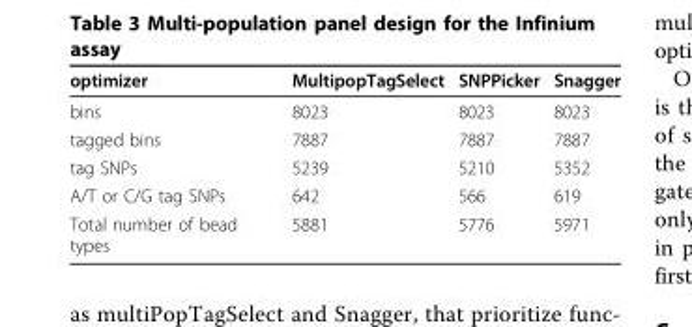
<table><thead><tr><td>optimizer</td><td>MultipopTagSelect</td><td>SNPPicker</td><td>Snagger</td></tr></thead><tbody><tr><td>bins</td><td>8023</td><td>8023</td><td>8023</td></tr><tr><td>tagged bins</td><td>7887</td><td>7887</td><td>7887</td></tr><tr><td>tag SNPs</td><td>5239</td><td>5210</td><td>5352</td></tr><tr><td>A/T or C/G tag SNPs</td><td>642</td><td>566</td><td>619</td></tr><tr><td>Total number of bead types</td><td>5881</td><td>5776</td><td>5971</td></tr></tbody></table>